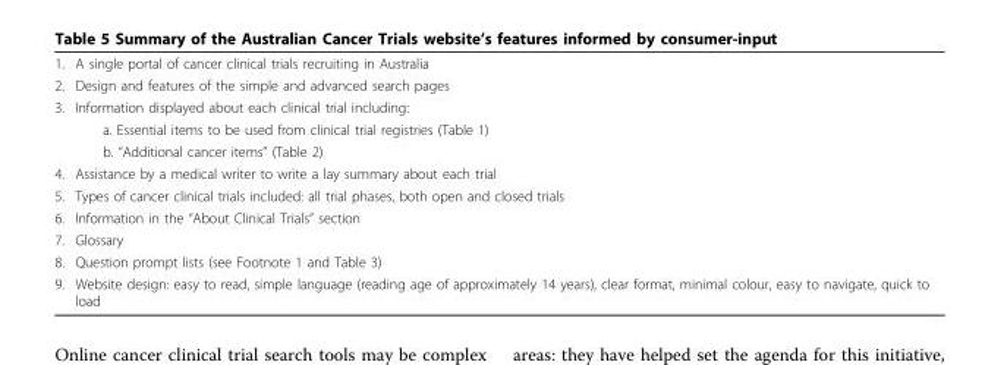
<table><tbody><tr><td>1.</td><td>A single portal of cancer clinical trials recruiting in Australia</td></tr><tr><td>2.</td><td>Design and features of the simple and advanced search pages</td></tr><tr><td rowspan="3">3.</td><td>Information displayed about each clinical trial including:</td></tr><tr><td>a. Essential items to be used from clinical trial registries (Table 1)</td></tr><tr><td>b. “Additional cancer items” (Table 2)</td></tr><tr><td>4.</td><td>Assistance by a medical writer to write a lay summary about each trial</td></tr><tr><td>5.</td><td>Types of cancer clinical trials included: all trial phases, both open and closed trials</td></tr><tr><td>6.</td><td>Information in the “About Clinical Trials” section</td></tr><tr><td>7.</td><td>Glossary</td></tr><tr><td>8.</td><td>Question prompt lists (see Footnote 1 and Table 3)</td></tr><tr><td>9.</td><td>Website design: easy to read, simple language (reading age of approximately 14 years), clear format, minimal colour, easy to navigate, quick to load</td></tr></tbody></table>